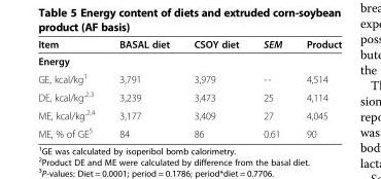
<table><thead><tr><td>Item</td><td>BASAL diet</td><td>CSOY diet</td><td>SEM</td><td>Product</td></tr></thead><tbody><tr><td colspan="5">Energy</td></tr><tr><td>GE, kcal/kg<sup>1</sup></td><td>3,791</td><td>3,979</td><td>--</td><td>4,514</td></tr><tr><td>DE, kcal/kg<sup>,2,3</sup></td><td>3,239</td><td>3,473</td><td>25</td><td>4,114</td></tr><tr><td>ME, kcal/kg<sup>,2,4</sup></td><td>3,177</td><td>3,409</td><td>27</td><td>4,045</td></tr><tr><td>ME, % of GE<sup>5</sup></td><td>84</td><td>86</td><td>0.61</td><td>90</td></tr></tbody></table>